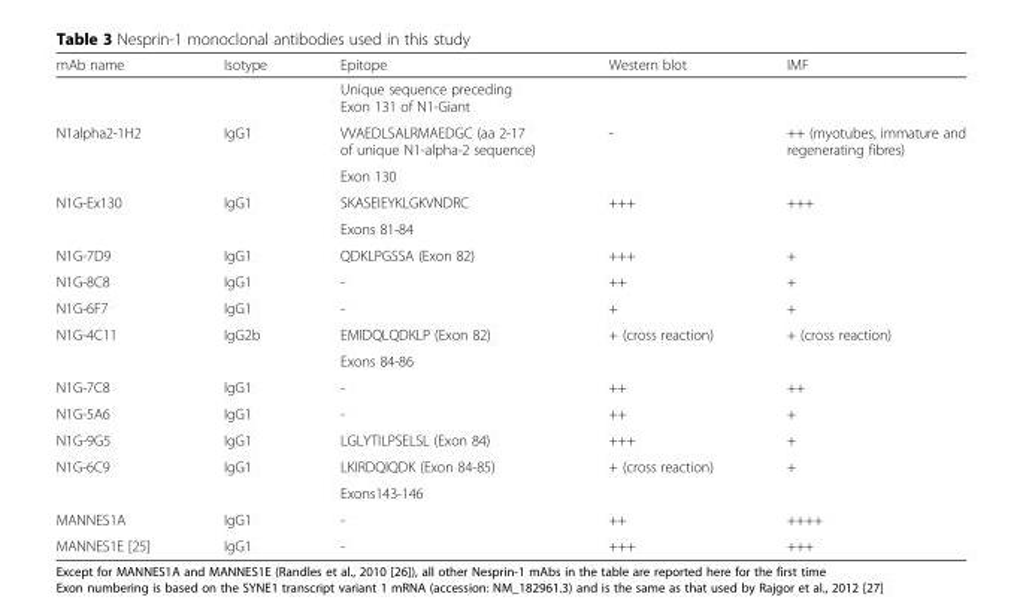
<table><thead><tr><td>mAb name</td><td>Isotype</td><td>Epitope</td><td>Western blot</td><td>IMF</td></tr></thead><tbody><tr><td></td><td></td><td>Unique sequence preceding Exon 131 of N1-Giant</td><td></td><td></td></tr><tr><td rowspan="2">N1alpha2-1H2</td><td>IgG1</td><td>VVAEDLSALRMAEDGC (aa 2-17 of unique N1-alpha-2 sequence)</td><td>-</td><td>++ (myotubes, immature and regenerating fibres)</td></tr><tr><td></td><td>Exon 130</td><td></td><td></td></tr><tr><td rowspan="2">N1G-Ex130</td><td>IgG1</td><td>SKASEIEYKLGKVNDRC</td><td>+++</td><td>+++</td></tr><tr><td></td><td>Exons 81-84</td><td></td><td></td></tr><tr><td>N1G-7D9</td><td>IgG1</td><td>QDKLPGSSA (Exon 82)</td><td>+++</td><td>+</td></tr><tr><td>N1G-8C8</td><td>IgG1</td><td>-</td><td>++</td><td>+</td></tr><tr><td>N1G-6F7</td><td>IgG1</td><td>-</td><td>+</td><td>+</td></tr><tr><td rowspan="2">N1G-4C11</td><td>IgG2b</td><td>EMIDQLQDKLP (Exon 82)</td><td>+ (cross reaction)</td><td>+ (cross reaction)</td></tr><tr><td></td><td>Exons 84-86</td><td></td><td></td></tr><tr><td>N1G-7C8</td><td>IgG1</td><td>-</td><td>++</td><td>++</td></tr><tr><td>N1G-5A6</td><td>IgG1</td><td>-</td><td>++</td><td>+</td></tr><tr><td>N1G-9G5</td><td>IgG1</td><td>LGLYTILPSELSL (Exon 84)</td><td>+++</td><td>+</td></tr><tr><td rowspan="2">N1G-6C9</td><td>IgG1</td><td>LKIRDQIQDK (Exon 84-85)</td><td>+ (cross reaction)</td><td>+</td></tr><tr><td></td><td>Exons143-146</td><td></td><td></td></tr><tr><td>MANNES1A</td><td>IgG1</td><td>-</td><td>++</td><td>++++</td></tr><tr><td>MANNES1E [25]</td><td>IgG1</td><td>-</td><td>+++</td><td>+++</td></tr></tbody></table>